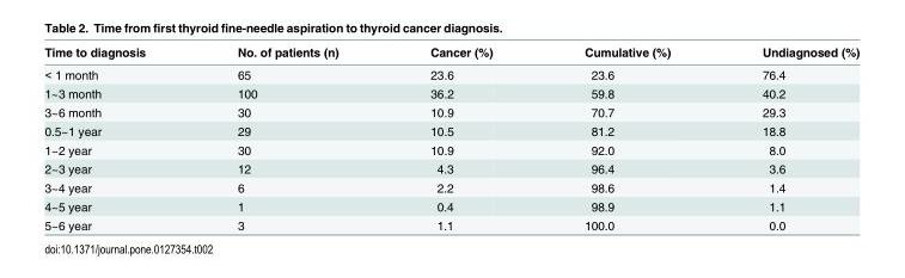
<table><thead><tr><td>Time to diagnosis</td><td>No. of patients (n)</td><td>Cancer (%)</td><td>Cumulative (%)</td><td>Undiagnosed (%)</td></tr></thead><tbody><tr><td>&lt; 1 month</td><td>65</td><td>23.6</td><td>23.6</td><td>76.4</td></tr><tr><td>1~3 month</td><td>100</td><td>36.2</td><td>59.8</td><td>40.2</td></tr><tr><td>3~6 month</td><td>30</td><td>10.9</td><td>70.7</td><td>29.3</td></tr><tr><td>0.5~1 year</td><td>29</td><td>10.5</td><td>81.2</td><td>18.8</td></tr><tr><td>1~2 year</td><td>30</td><td>10.9</td><td>92.0</td><td>8.0</td></tr><tr><td>2~3 year</td><td>12</td><td>4.3</td><td>96.4</td><td>3.6</td></tr><tr><td>3~4 year</td><td>6</td><td>2.2</td><td>98.6</td><td>1.4</td></tr><tr><td>4~5 year</td><td>1</td><td>0.4</td><td>98.9</td><td>1.1</td></tr><tr><td>5~6 year</td><td>3</td><td>1.1</td><td>100.0</td><td>0.0</td></tr></tbody></table>